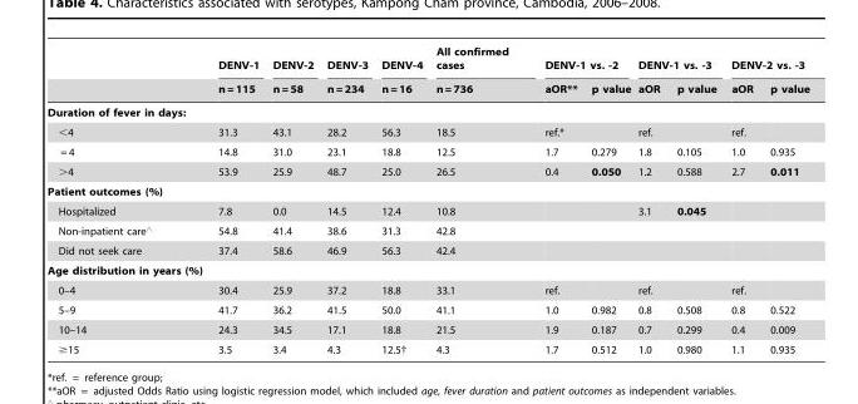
<table><thead><tr><td rowspan="2"></td><td rowspan="2">DENV-1 n = 115</td><td rowspan="2">DENV-2 n = 58</td><td rowspan="2">DENV-3 n = 234</td><td rowspan="2">DENV-4 n = 16</td><td rowspan="2">All confirmed cases n = 736</td><td colspan="2">DENV-1 vs. -2</td><td colspan="2">DENV-1 vs. -3</td><td colspan="2">DENV-2 vs. -3</td></tr><tr><td>aOR**</td><td>p value</td><td>aOR</td><td>p value</td><td>aOR</td><td>p value</td></tr></thead><tbody><tr><td colspan="12">Duration of fever in days:</td></tr><tr><td>&lt;4</td><td>31.3</td><td>43.1</td><td>28.2</td><td>56.3</td><td>18.5</td><td>ref.*</td><td></td><td>ref.</td><td></td><td>ref.</td><td></td></tr><tr><td>= 4</td><td>14.8</td><td>31.0</td><td>23.1</td><td>18.8</td><td>12.5</td><td>1.7</td><td>0.279</td><td>1.8</td><td>0.105</td><td>1.0</td><td>0.935</td></tr><tr><td>&gt;4</td><td>53.9</td><td>25.9</td><td>48.7</td><td>25.0</td><td>26.5</td><td>0.4</td><td>0.050</td><td>1.2</td><td>0.588</td><td>2.7</td><td>0.011</td></tr><tr><td colspan="12">Patient outcomes (%)</td></tr><tr><td>Hospitalized</td><td>7.8</td><td>0.0</td><td>14.5</td><td>12.4</td><td>10.8</td><td></td><td></td><td>3.1</td><td>0.045</td><td></td><td></td></tr><tr><td>Non-inpatient care‘</td><td>54.8</td><td>41.4</td><td>38.6</td><td>31.3</td><td>42.8</td><td></td><td></td><td></td><td></td><td></td><td></td></tr><tr><td>Did not seek care</td><td>37.4</td><td>58.6</td><td>46.9</td><td>56.3</td><td>42.4</td><td></td><td></td><td></td><td></td><td></td><td></td></tr><tr><td colspan="12">Age distribution in years (%)</td></tr><tr><td>0–4</td><td>30.4</td><td>25.9</td><td>37.2</td><td>18.8</td><td>33.1</td><td>ref.</td><td></td><td>ref.</td><td></td><td>ref.</td><td></td></tr><tr><td>5–9</td><td>41.7</td><td>36.2</td><td>41.5</td><td>50.0</td><td>41.1</td><td>1.0</td><td>0.982</td><td>0.8</td><td>0.508</td><td>0.8</td><td>0.522</td></tr><tr><td>10–14</td><td>24.3</td><td>34.5</td><td>17.1</td><td>18.8</td><td>21.5</td><td>1.9</td><td>0.187</td><td>0.7</td><td>0.299</td><td>0.4</td><td>0.009</td></tr><tr><td>≥15</td><td>3.5</td><td>3.4</td><td>4.3</td><td>12.5†</td><td>4.3</td><td>1.7</td><td>0.512</td><td>1.0</td><td>0.980</td><td>1.1</td><td>0.935</td></tr></tbody></table>